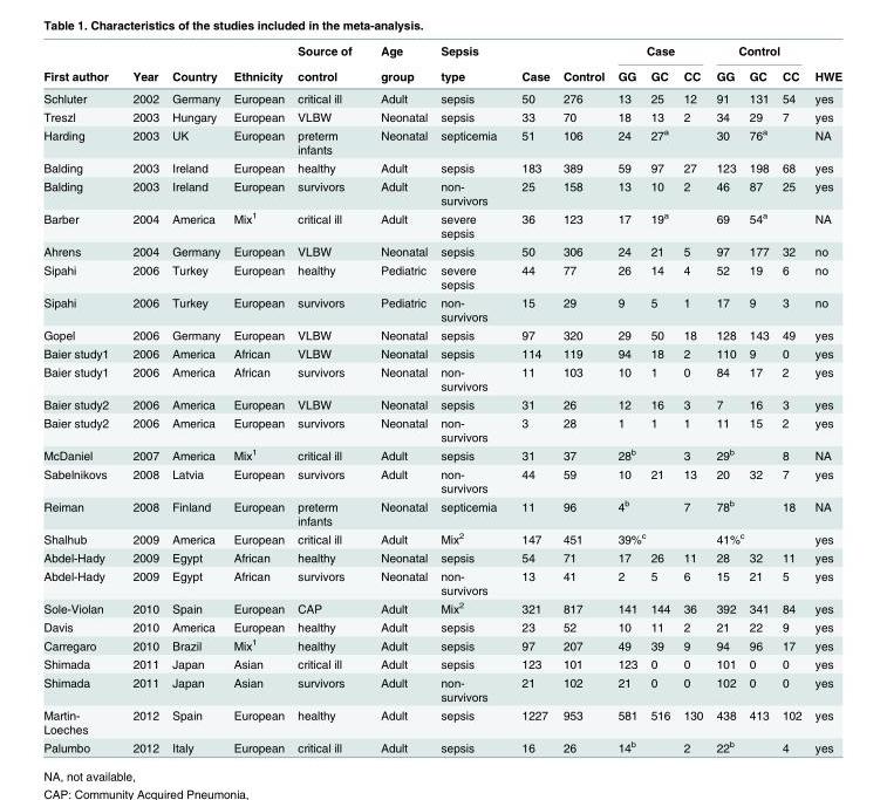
<table><thead><tr><td rowspan="2">First author</td><td rowspan="2">Year</td><td rowspan="2">Country</td><td rowspan="2">Ethnicity</td><td rowspan="2">Source of control</td><td rowspan="2">Age group</td><td rowspan="2">Sepsis type</td><td rowspan="2">Case</td><td rowspan="2">Control</td><td colspan="3">Case</td><td colspan="3">Control</td><td rowspan="2">HWE</td></tr><tr><td>GG</td><td>GC</td><td>CC</td><td>GG</td><td>GC</td><td>CC</td></tr></thead><tbody><tr><td>Schluter</td><td>2002</td><td>Germany</td><td>European</td><td>critical ill</td><td>Adult</td><td>sepsis</td><td>50</td><td>276</td><td>13</td><td>25</td><td>12</td><td>91</td><td>131</td><td>54</td><td>yes</td></tr><tr><td>Treszl</td><td>2003</td><td>Hungary</td><td>European</td><td>VLBW</td><td>Neonatal</td><td>sepsis</td><td>33</td><td>70</td><td>18</td><td>13</td><td>2</td><td>34</td><td>29</td><td>7</td><td>yes</td></tr><tr><td>Harding</td><td>2003</td><td>UK</td><td>European</td><td>preterm infants</td><td>Neonatal</td><td>septicemia</td><td>51</td><td>106</td><td>24</td><td colspan="2">27<sup>a</sup></td><td>30</td><td colspan="2">76<sup>a</sup></td><td>NA</td></tr><tr><td>Balding</td><td>2003</td><td>Ireland</td><td>European</td><td>healthy</td><td>Adult</td><td>sepsis</td><td>183</td><td>389</td><td>59</td><td>97</td><td>27</td><td>123</td><td>198</td><td>68</td><td>yes</td></tr><tr><td>Balding</td><td>2003</td><td>Ireland</td><td>European</td><td>survivors</td><td>Adult</td><td>non- survivors</td><td>25</td><td>158</td><td>13</td><td>10</td><td>2</td><td>46</td><td>87</td><td>25</td><td>yes</td></tr><tr><td>Barber</td><td>2004</td><td>America</td><td>Mix<sup>1</sup></td><td>critical ill</td><td>Adult</td><td>severe sepsis</td><td>36</td><td>123</td><td>17</td><td colspan="2">19<sup>a</sup></td><td>69</td><td colspan="2">54<sup>a</sup></td><td>NA</td></tr><tr><td>Ahrens</td><td>2004</td><td>Germany</td><td>European</td><td>VLBW</td><td>Neonatal</td><td>sepsis</td><td>50</td><td>306</td><td>24</td><td>21</td><td>5</td><td>97</td><td>177</td><td>32</td><td>no</td></tr><tr><td>Sipahi</td><td>2006</td><td>Turkey</td><td>European</td><td>healthy</td><td>Pediatric</td><td>severe sepsis</td><td>44</td><td>77</td><td>26</td><td>14</td><td>4</td><td>52</td><td>19</td><td>6</td><td>no</td></tr><tr><td>Sipahi</td><td>2006</td><td>Turkey</td><td>European</td><td>survivors</td><td>Pediatric</td><td>non- survivors</td><td>15</td><td>29</td><td>9</td><td>5</td><td>1</td><td>17</td><td>9</td><td>3</td><td>no</td></tr><tr><td>Gopel</td><td>2006</td><td>Germany</td><td>European</td><td>VLBW</td><td>Neonatal</td><td>sepsis</td><td>97</td><td>320</td><td>29</td><td>50</td><td>18</td><td>128</td><td>143</td><td>49</td><td>yes</td></tr><tr><td>Baier study1</td><td>2006</td><td>America</td><td>African</td><td>VLBW</td><td>Neonatal</td><td>sepsis</td><td>114</td><td>119</td><td>94</td><td>18</td><td>2</td><td>110</td><td>9</td><td>0</td><td>yes</td></tr><tr><td>Baier study1</td><td>2006</td><td>America</td><td>African</td><td>survivors</td><td>Neonatal</td><td>non- survivors</td><td>11</td><td>103</td><td>10</td><td>1</td><td>0</td><td>84</td><td>17</td><td>2</td><td>yes</td></tr><tr><td>Baier study2</td><td>2006</td><td>America</td><td>European</td><td>VLBW</td><td>Neonatal</td><td>sepsis</td><td>31</td><td>26</td><td>12</td><td>16</td><td>3</td><td>7</td><td>16</td><td>3</td><td>yes</td></tr><tr><td>Baier study2</td><td>2006</td><td>America</td><td>European</td><td>survivors</td><td>Neonatal</td><td>non- survivors</td><td>3</td><td>28</td><td>1</td><td>1</td><td>1</td><td>11</td><td>15</td><td>2</td><td>yes</td></tr><tr><td>McDaniel</td><td>2007</td><td>America</td><td>Mix<sup>1</sup></td><td>critical ill</td><td>Adult</td><td>sepsis</td><td>31</td><td>37</td><td colspan="2">28<sup>b</sup></td><td>3</td><td colspan="2">29<sup>b</sup></td><td>8</td><td>NA</td></tr><tr><td>Sabelnikovs</td><td>2008</td><td>Latvia</td><td>European</td><td>survivors</td><td>Adult</td><td>non- survivors</td><td>44</td><td>59</td><td>10</td><td>21</td><td>13</td><td>20</td><td>32</td><td>7</td><td>yes</td></tr><tr><td>Reiman</td><td>2008</td><td>Finland</td><td>European</td><td>preterm infants</td><td>Neonatal</td><td>septicemia</td><td>11</td><td>96</td><td colspan="2">4<sup>b</sup></td><td>7</td><td colspan="2">78<sup>b</sup></td><td>18</td><td>NA</td></tr><tr><td>Shalhub</td><td>2009</td><td>America</td><td>European</td><td>critical ill</td><td>Adult</td><td>Mix<sup>2</sup></td><td>147</td><td>451</td><td colspan="3">39%<sup>c</sup></td><td colspan="3">41%<sup>c</sup></td><td>yes</td></tr><tr><td>Abdel-Hady</td><td>2009</td><td>Egypt</td><td>African</td><td>healthy</td><td>Neonatal</td><td>sepsis</td><td>54</td><td>71</td><td>17</td><td>26</td><td>11</td><td>28</td><td>32</td><td>11</td><td>yes</td></tr><tr><td>Abdel-Hady</td><td>2009</td><td>Egypt</td><td>African</td><td>survivors</td><td>Neonatal</td><td>non- survivors</td><td>13</td><td>41</td><td>2</td><td>5</td><td>6</td><td>15</td><td>21</td><td>5</td><td>yes</td></tr><tr><td>Sole-Violan</td><td>2010</td><td>Spain</td><td>European</td><td>CAP</td><td>Adult</td><td>Mix<sup>2</sup></td><td>321</td><td>817</td><td>141</td><td>144</td><td>36</td><td>392</td><td>341</td><td>84</td><td>yes</td></tr><tr><td>Davis</td><td>2010</td><td>America</td><td>European</td><td>healthy</td><td>Adult</td><td>sepsis</td><td>23</td><td>52</td><td>10</td><td>11</td><td>2</td><td>21</td><td>22</td><td>9</td><td>yes</td></tr><tr><td>Carregaro</td><td>2010</td><td>Brazil</td><td>Mix<sup>1</sup></td><td>healthy</td><td>Adult</td><td>sepsis</td><td>97</td><td>207</td><td>49</td><td>39</td><td>9</td><td>94</td><td>96</td><td>17</td><td>yes</td></tr><tr><td>Shimada</td><td>2011</td><td>Japan</td><td>Asian</td><td>critical ill</td><td>Adult</td><td>sepsis</td><td>123</td><td>101</td><td>123</td><td>0</td><td>0</td><td>101</td><td>0</td><td>0</td><td>yes</td></tr><tr><td>Shimada</td><td>2011</td><td>Japan</td><td>Asian</td><td>survivors</td><td>Adult</td><td>non- survivors</td><td>21</td><td>102</td><td>21</td><td>0</td><td>0</td><td>102</td><td>0</td><td>0</td><td>yes</td></tr><tr><td>Martin- Loeches</td><td>2012</td><td>Spain</td><td>European</td><td>healthy</td><td>Adult</td><td>sepsis</td><td>1227</td><td>953</td><td>581</td><td>516</td><td>130</td><td>438</td><td>413</td><td>102</td><td>yes</td></tr><tr><td>Palumbo</td><td>2012</td><td>Italy</td><td>European</td><td>critical ill</td><td>Adult</td><td>sepsis</td><td>16</td><td>26</td><td colspan="2">14<sup>b</sup></td><td>2</td><td colspan="2">22<sup>b</sup></td><td>4</td><td>yes</td></tr></tbody></table>